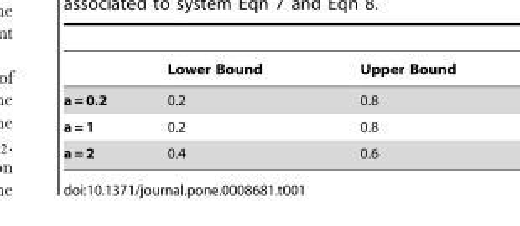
<table><thead><tr><td></td><td>Lower Bound</td><td>Upper Bound</td></tr></thead><tbody><tr><td>a = 0.2</td><td>0.2</td><td>0.8</td></tr><tr><td>a = 1</td><td>0.2</td><td>0.8</td></tr><tr><td>a = 2</td><td>0.4</td><td>0.6</td></tr></tbody></table>